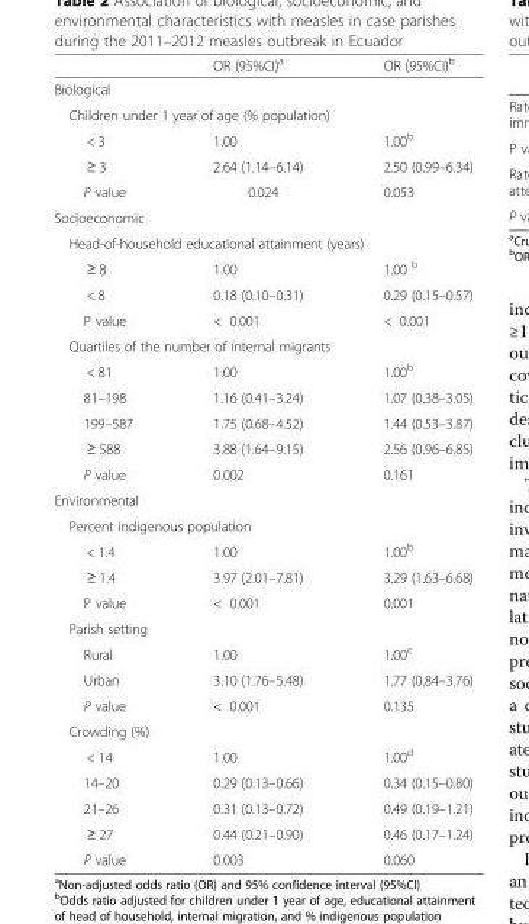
<table><thead><tr><td></td><td>OR (95%CI)<sup>a</sup></td><td>OR (95%CI)<sup>b</sup></td></tr></thead><tbody><tr><td colspan="3">Biological</td></tr><tr><td colspan="3">Children under 1 year of age (% population)</td></tr><tr><td>&lt; 3</td><td>1.00</td><td>1.00<sup>b</sup></td></tr><tr><td>≥ 3</td><td>2.64 (1.14–6.14)</td><td>2.50 (0.99–6.34)</td></tr><tr><td>P value</td><td>0.024</td><td>0.053</td></tr><tr><td colspan="3">Socioeconomic</td></tr><tr><td colspan="3">Head-of-household educational attainment (years)</td></tr><tr><td>≥ 8</td><td>1.00</td><td>1.00 <sup>b</sup></td></tr><tr><td>&lt; 8</td><td>0.18 (0.10–0.31)</td><td>0.29 (0.15–0.57)</td></tr><tr><td>P value</td><td>&lt; 0.001</td><td>&lt; 0.001</td></tr><tr><td colspan="3">Quartiles of the number of internal migrants</td></tr><tr><td>&lt; 81</td><td>1.00</td><td>1.00<sup>b</sup></td></tr><tr><td>81–198</td><td>1.16 (0.41–3.24)</td><td>1.07 (0.38–3.05)</td></tr><tr><td>199–587</td><td>1.75 (0.68–4.52)</td><td>1.44 (0.53–3.87)</td></tr><tr><td>≥ 588</td><td>3.88 (1.64–9.15)</td><td>2.56 (0.96–6.85)</td></tr><tr><td>P value</td><td>0.002</td><td>0.161</td></tr><tr><td colspan="3">Environmental</td></tr><tr><td colspan="3">Percent indigenous population</td></tr><tr><td>&lt; 1.4</td><td>1.00</td><td>1.00<sup>b</sup></td></tr><tr><td>≥ 1.4</td><td>3.97 (2.01–7.81)</td><td>3.29 (1.63–6.68)</td></tr><tr><td>P value</td><td>&lt; 0.001</td><td>0.001</td></tr><tr><td colspan="3">Parish setting</td></tr><tr><td>Rural</td><td>1.00</td><td>1.00<sup>c</sup></td></tr><tr><td>Urban</td><td>3.10 (1.76–5.48)</td><td>1.77 (0.84–3.76)</td></tr><tr><td>P value</td><td>&lt; 0.001</td><td>0.135</td></tr><tr><td colspan="3">Crowding (%)</td></tr><tr><td>&lt; 14</td><td>1.00</td><td>1.00<sup>d</sup></td></tr><tr><td>14–20</td><td>0.29 (0.13–0.66)</td><td>0.34 (0.15–0.80)</td></tr><tr><td>21–26</td><td>0.31 (0.13–0.72)</td><td>0.49 (0.19–1.21)</td></tr><tr><td>≥ 27</td><td>0.44 (0.21–0.90)</td><td>0.46 (0.17–1.24)</td></tr><tr><td>P value</td><td>0.003</td><td>0.060</td></tr></tbody></table>